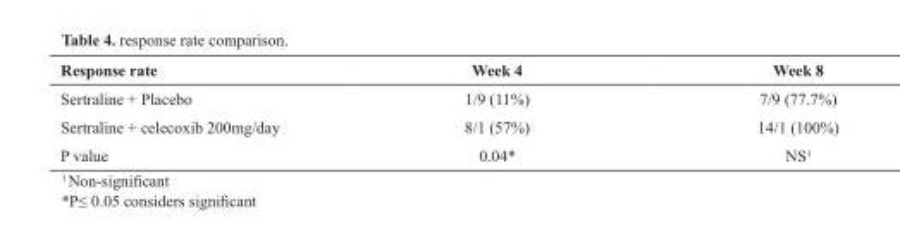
<table><thead><tr><td>Week 8</td><td>Week 4</td><td>Response rate</td></tr></thead><tbody><tr><td>7/9 (77.7%)</td><td>1/9 (11%)</td><td>Sertraline + Placebo</td></tr><tr><td>14/1 (100%)</td><td>8/1 (57%)</td><td>Sertraline + celecoxib 200mg/day</td></tr><tr><td>NS<sup>1</sup></td><td>0.04*</td><td>P value</td></tr></tbody></table>